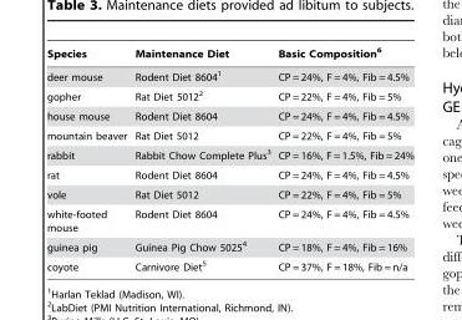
<table><thead><tr><td>Species</td><td>Maintenance Diet</td><td>Basic Composition<sup>6</sup></td></tr></thead><tbody><tr><td>deer mouse</td><td>Rodent Diet 8604<sup>1</sup></td><td>CP = 24%, F = 4%, Fib = 4.5%</td></tr><tr><td>gopher</td><td>Rat Diet 5012<sup>2</sup></td><td>CP = 22%, F = 4%, Fib = 5%</td></tr><tr><td>house mouse</td><td>Rodent Diet 8604</td><td>CP = 24%, F = 4%, Fib = 4.5%</td></tr><tr><td>mountain beaver</td><td>Rat Diet 5012</td><td>CP = 22%, F = 4%, Fib = 5%</td></tr><tr><td>rabbit</td><td>Rabbit Chow Complete Plus<sup>3</sup></td><td>CP = 16%, F = 1.5%, Fib = 24%</td></tr><tr><td>rat</td><td>Rodent Diet 8604</td><td>CP = 24%, F = 4%, Fib = 4.5%</td></tr><tr><td>vole</td><td>Rat Diet 5012</td><td>CP = 22%, F = 4%, Fib = 5%</td></tr><tr><td>white-footed mouse</td><td>Rodent Diet 8604</td><td>CP = 24%, F = 4%, Fib = 4.5%</td></tr><tr><td>guinea pig</td><td>Guinea Pig Chow 5025<sup>4</sup></td><td>CP = 18%, F = 4%, Fib = 16%</td></tr><tr><td>coyote</td><td>Carnivore Diet<sup>5</sup></td><td>CP = 37%, F = 18%, Fib = n/a</td></tr></tbody></table>